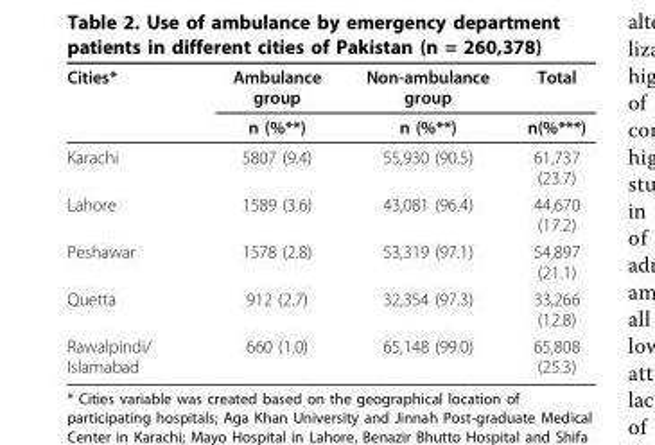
<table><thead><tr><td rowspan="2">Cities*</td><td rowspan="2">Ambulance group n (%**)</td><td rowspan="2">Non-ambulance group n (%**)</td><td rowspan="2">Total n(%***)</td></tr><tr></tr></thead><tbody><tr><td>Karachi</td><td>5807 (9.4)</td><td>55,930 (90.5)</td><td>61,737 (23.7)</td></tr><tr><td>Lahore</td><td>1589 (3.6)</td><td>43,081 (96.4)</td><td>44,670 (17.2)</td></tr><tr><td>Peshawar</td><td>1578 (2.8)</td><td>53,319 (97.1)</td><td>54,897 (21.1)</td></tr><tr><td>Quetta</td><td>912 (2.7)</td><td>32,354 (97.3)</td><td>33,266 (12.8)</td></tr><tr><td>Rawalpindi/ Islamabad</td><td>660 (1.0)</td><td>65,148 (99.0)</td><td>65,808 (25.3)</td></tr></tbody></table>